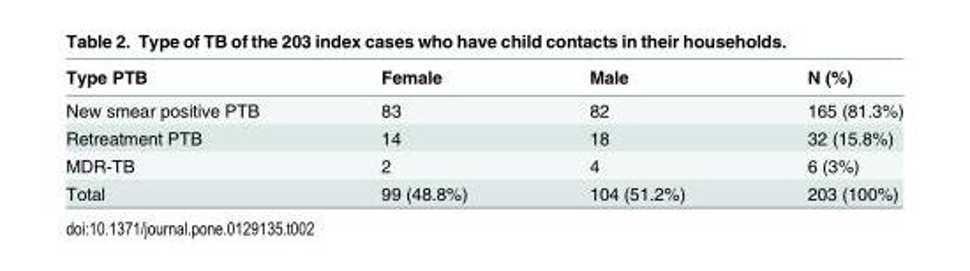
<table><thead><tr><td>Type PTB</td><td>Female</td><td>Male</td><td>N (%)</td></tr></thead><tbody><tr><td>New smear positive PTB</td><td>83</td><td>82</td><td>165 (81.3%)</td></tr><tr><td>Retreatment PTB</td><td>14</td><td>18</td><td>32 (15.8%)</td></tr><tr><td>MDR-TB</td><td>2</td><td>4</td><td>6 (3%)</td></tr><tr><td>Total</td><td>99 (48.8%)</td><td>104 (51.2%)</td><td>203 (100%)</td></tr></tbody></table>